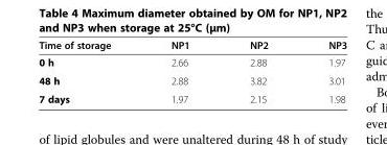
<table><thead><tr><td>Time of storage</td><td>NP1</td><td>NP2</td><td>NP3</td></tr></thead><tbody><tr><td>0 h</td><td>2.66</td><td>2.88</td><td>1.97</td></tr><tr><td>48 h</td><td>2.88</td><td>3.82</td><td>3.01</td></tr><tr><td>7 days</td><td>1.97</td><td>2.15</td><td>1.98</td></tr></tbody></table>